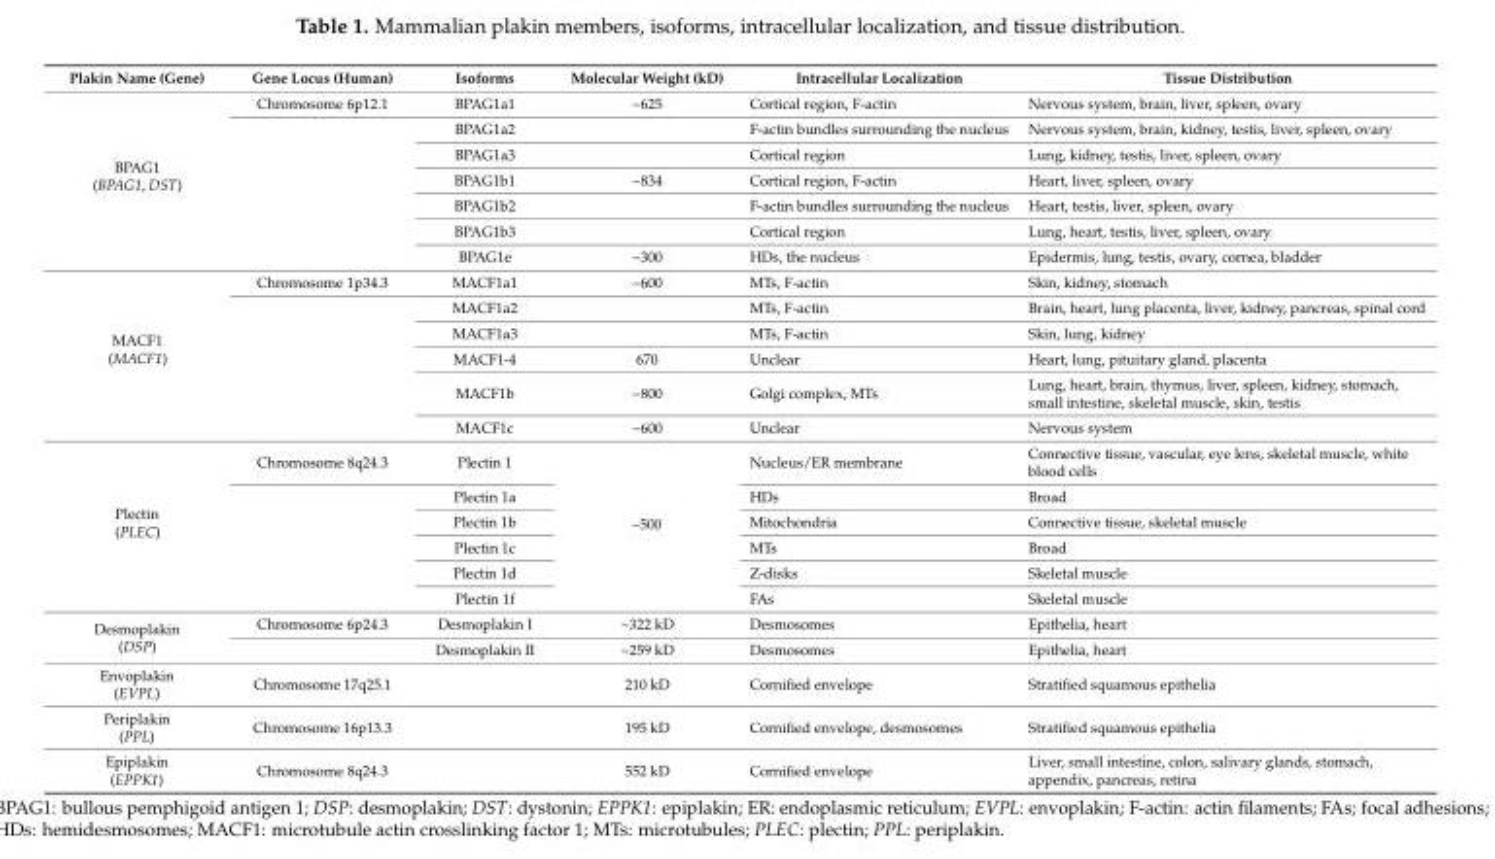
<table><thead><tr><td>Plakin Name (Gene)</td><td>Gene Locus (Human)</td><td>Isoforms</td><td>Molecular Weight (kD)</td><td>Intracellular Localization</td><td>Tissue Distribution</td></tr></thead><tbody><tr><td rowspan="7">BPAG1 (BPAG1, DST)</td><td>Chromosome 6p12.1</td><td>BPAG1a1</td><td>~625</td><td>Cortical region, F-actin</td><td>Nervous system, brain, liver, spleen, ovary</td></tr><tr><td rowspan="6"></td><td>BPAG1a2</td><td></td><td>F-actin bundles surrounding the nucleus</td><td>Nervous system, brain, kidney, testis, liver, spleen, ovary</td></tr><tr><td>BPAG1a3</td><td></td><td>Cortical region</td><td>Lung, kidney, testis, liver, spleen, ovary</td></tr><tr><td>BPAG1b1</td><td>~834</td><td>Cortical region, F-actin</td><td>Heart, liver, spleen, ovary</td></tr><tr><td>BPAG1b2</td><td></td><td>F-actin bundles surrounding the nucleus</td><td>Heart, testis, liver, spleen, ovary</td></tr><tr><td>BPAG1b3</td><td></td><td>Cortical region</td><td>Lung, heart, testis, liver, spleen, ovary</td></tr><tr><td>BPAG1e</td><td>~300</td><td>HDs, the nucleus</td><td>Epidermis, lung, testis, ovary, cornea, bladder</td></tr><tr><td rowspan="6">MACF1 (MACF1)</td><td>Chromosome 1p34.3</td><td>MACF1a1</td><td>~600</td><td>MTs, F-actin</td><td>Skin, kidney, stomach</td></tr><tr><td rowspan="5"></td><td>MACF1a2</td><td></td><td>MTs, F-actin</td><td>Brain, heart, lung placenta, liver, kidney, pancreas, spinal cord</td></tr><tr><td>MACF1a3</td><td></td><td>MTs, F-actin</td><td>Skin, lung, kidney</td></tr><tr><td>MACF1-4</td><td>670</td><td>Unclear</td><td>Heart, lung, pituitary gland, placenta</td></tr><tr><td>MACF1b</td><td>~800</td><td>Golgi complex, MTs</td><td>Lung, heart, brain, thymus, liver, spleen, kidney, stomach, small intestine, skeletal muscle, skin, testis</td></tr><tr><td>MACF1c</td><td>~600</td><td>Unclear</td><td>Nervous system</td></tr><tr><td rowspan="6">Plectin (PLEC)</td><td>Chromosome 8q24.3</td><td>Plectin 1</td><td rowspan="6">~500</td><td>Nucleus/ER membrane</td><td>Connective tissue, vascular, eye lens, skeletal muscle, white blood cells</td></tr><tr><td rowspan="5"></td><td>Plectin 1a</td><td>HDs</td><td>Broad</td></tr><tr><td>Plectin 1b</td><td>Mitochondria</td><td>Connective tissue, skeletal muscle</td></tr><tr><td>Plectin 1c</td><td>MTs</td><td>Broad</td></tr><tr><td>Plectin 1d</td><td>Z-disks</td><td>Skeletal muscle</td></tr><tr><td>Plectin 1f</td><td>FAs</td><td>Skeletal muscle</td></tr><tr><td rowspan="2">Desmoplakin (DSP)</td><td>Chromosome 6p24.3</td><td>Desmoplakin I</td><td>~322 kD</td><td>Desmosomes</td><td>Epithelia, heart</td></tr><tr><td></td><td>Desmoplakin II</td><td>~259 kD</td><td>Desmosomes</td><td>Epithelia, heart</td></tr><tr><td>Envoplakin (EVPL)</td><td>Chromosome 17q25.1</td><td></td><td>210 kD</td><td>Cornified envelope</td><td>Stratified squamous epithelia</td></tr><tr><td>Periplakin (PPL)</td><td>Chromosome 16p13.3</td><td></td><td>195 kD</td><td>Cornified envelope, desmosomes</td><td>Stratified squamous epithelia</td></tr><tr><td>Epiplakin (EPPK1)</td><td>Chromosome 8q24.3</td><td></td><td>552 kD</td><td>Cornified envelope</td><td>Liver, small intestine, colon, salivary glands, stomach, appendix, pancreas, retina</td></tr></tbody></table>